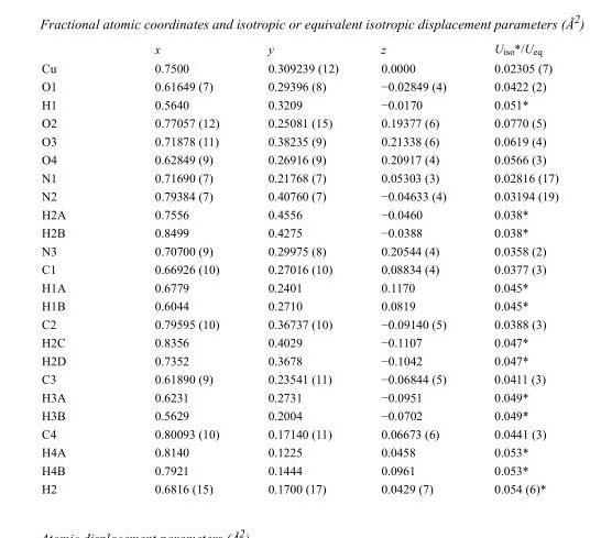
<table><thead><tr><td></td><td>x</td><td>y</td><td>z</td><td>U<sub>iso</sub>*/U<sub>eq</sub></td></tr></thead><tbody><tr><td>Cu</td><td>0.7500</td><td>0.309239 (12)</td><td>0.0000</td><td>0.02305 (7)</td></tr><tr><td>O1</td><td>0.61649 (7)</td><td>0.29396 (8)</td><td>−0.02849 (4)</td><td>0.0422 (2)</td></tr><tr><td>H1</td><td>0.5640</td><td>0.3209</td><td>−0.0170</td><td>0.051*</td></tr><tr><td>O2</td><td>0.77057 (12)</td><td>0.25081 (15)</td><td>0.19377 (6)</td><td>0.0770 (5)</td></tr><tr><td>O3</td><td>0.71878 (11)</td><td>0.38235 (9)</td><td>0.21338 (6)</td><td>0.0619 (4)</td></tr><tr><td>O4</td><td>0.62849 (9)</td><td>0.26916 (9)</td><td>0.20917 (4)</td><td>0.0566 (3)</td></tr><tr><td>N1</td><td>0.71690 (7)</td><td>0.21768 (7)</td><td>0.05303 (3)</td><td>0.02816 (17)</td></tr><tr><td>N2</td><td>0.79384 (7)</td><td>0.40760 (7)</td><td>−0.04633 (4)</td><td>0.03194 (19)</td></tr><tr><td>H2A</td><td>0.7556</td><td>0.4556</td><td>−0.0460</td><td>0.038*</td></tr><tr><td>H2B</td><td>0.8499</td><td>0.4275</td><td>−0.0388</td><td>0.038*</td></tr><tr><td>N3</td><td>0.70700 (9)</td><td>0.29975 (8)</td><td>0.20544 (4)</td><td>0.0358 (2)</td></tr><tr><td>C1</td><td>0.66926 (10)</td><td>0.27016 (10)</td><td>0.08834 (4)</td><td>0.0377 (3)</td></tr><tr><td>H1A</td><td>0.6779</td><td>0.2401</td><td>0.1170</td><td>0.045*</td></tr><tr><td>H1B</td><td>0.6044</td><td>0.2710</td><td>0.0819</td><td>0.045*</td></tr><tr><td>C2</td><td>0.79595 (10)</td><td>0.36737 (10)</td><td>−0.09140 (5)</td><td>0.0388 (3)</td></tr><tr><td>H2C</td><td>0.8356</td><td>0.4029</td><td>−0.1107</td><td>0.047*</td></tr><tr><td>H2D</td><td>0.7352</td><td>0.3678</td><td>−0.1042</td><td>0.047*</td></tr><tr><td>C3</td><td>0.61890 (9)</td><td>0.23541 (11)</td><td>−0.06844 (5)</td><td>0.0411 (3)</td></tr><tr><td>H3A</td><td>0.6231</td><td>0.2731</td><td>−0.0951</td><td>0.049*</td></tr><tr><td>H3B</td><td>0.5629</td><td>0.2004</td><td>−0.0702</td><td>0.049*</td></tr><tr><td>C4</td><td>0.80093 (10)</td><td>0.17140 (11)</td><td>0.06673 (6)</td><td>0.0441 (3)</td></tr><tr><td>H4A</td><td>0.8140</td><td>0.1225</td><td>0.0458</td><td>0.053*</td></tr><tr><td>H4B</td><td>0.7921</td><td>0.1444</td><td>0.0961</td><td>0.053*</td></tr><tr><td>H2</td><td>0.6816 (15)</td><td>0.1700 (17)</td><td>0.0429 (7)</td><td>0.054 (6)*</td></tr></tbody></table>